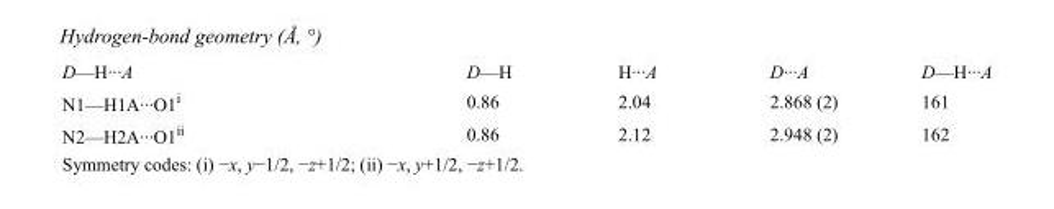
<table><tbody><tr><td>D—H···A</td><td>D—H</td><td>H···A</td><td>D···A</td><td>D—H···A</td></tr><tr><td>N1—H1A···O1<sup>i</sup></td><td>0.86</td><td>2.04</td><td>2.868 (2)</td><td>161</td></tr><tr><td>N2—H2A···O1<sup>ii</sup></td><td>0.86</td><td>2.12</td><td>2.948 (2)</td><td>162</td></tr></tbody></table>